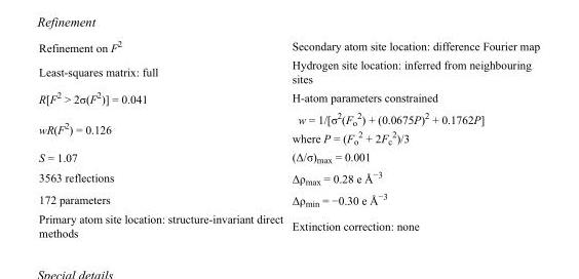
<table><tbody><tr><td>Refinement on F<sup>2</sup></td><td>Secondary atom site location: difference Fourier map</td></tr><tr><td>Least-squares matrix: full</td><td>Hydrogen site location: inferred from neighbouring sites</td></tr><tr><td>R[F<sup>2</sup> &gt; 2σ(F<sup>2</sup>)] = 0.041</td><td>H-atom parameters constrained</td></tr><tr><td>wR(F<sup>2</sup>) = 0.126</td><td>w = 1/[σ<sup>2</sup>(F<sub>o</sub> <sup>2</sup>) + (0.0675P)<sup>2</sup> + 0.1762P] where P = (F<sub>o</sub> <sup>2</sup> + 2F<sub>c</sub> <sup>2</sup>)/3</td></tr><tr><td>S = 1.07</td><td>(Δ/σ)<sub>max</sub> = 0.001</td></tr><tr><td>3563 reflections</td><td>Δρ<sub>max</sub> = 0.28 e Å<sup>−3</sup></td></tr><tr><td>172 parameters</td><td>Δρ<sub>min</sub> = −0.30 e Å<sup>−3</sup></td></tr><tr><td>Primary atom site location: structure-invariant direct methods</td><td>Extinction correction: none</td></tr></tbody></table>